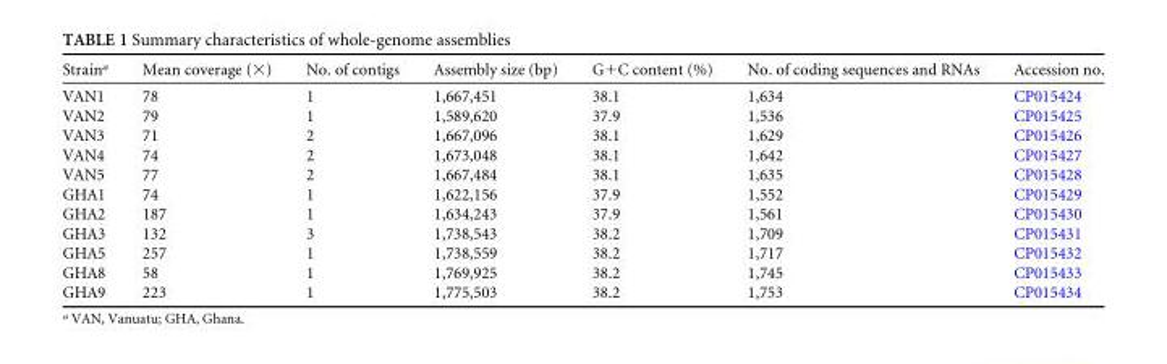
<table><thead><tr><td>Strain<sup>a</sup></td><td>Mean coverage (×)</td><td>No. of contigs</td><td>Assembly size (bp)</td><td>G+C content (%)</td><td>No. of coding sequences and RNAs</td><td>Accession no.</td></tr></thead><tbody><tr><td>VAN1</td><td>78</td><td>1</td><td>1,667,451</td><td>38.1</td><td>1,634</td><td>CP015424</td></tr><tr><td>VAN2</td><td>79</td><td>1</td><td>1,589,620</td><td>37.9</td><td>1,536</td><td>CP015425</td></tr><tr><td>VAN3</td><td>71</td><td>2</td><td>1,667,096</td><td>38.1</td><td>1,629</td><td>CP015426</td></tr><tr><td>VAN4</td><td>74</td><td>2</td><td>1,673,048</td><td>38.1</td><td>1,642</td><td>CP015427</td></tr><tr><td>VAN5</td><td>77</td><td>2</td><td>1,667,484</td><td>38.1</td><td>1,635</td><td>CP015428</td></tr><tr><td>GHA1</td><td>74</td><td>1</td><td>1,622,156</td><td>37.9</td><td>1,552</td><td>CP015429</td></tr><tr><td>GHA2</td><td>187</td><td>1</td><td>1,634,243</td><td>37.9</td><td>1,561</td><td>CP015430</td></tr><tr><td>GHA3</td><td>132</td><td>3</td><td>1,738,543</td><td>38.2</td><td>1,709</td><td>CP015431</td></tr><tr><td>GHA5</td><td>257</td><td>1</td><td>1,738,559</td><td>38.2</td><td>1,717</td><td>CP015432</td></tr><tr><td>GHA8</td><td>58</td><td>1</td><td>1,769,925</td><td>38.2</td><td>1,745</td><td>CP015433</td></tr><tr><td>GHA9</td><td>223</td><td>1</td><td>1,775,503</td><td>38.2</td><td>1,753</td><td>CP015434</td></tr></tbody></table>